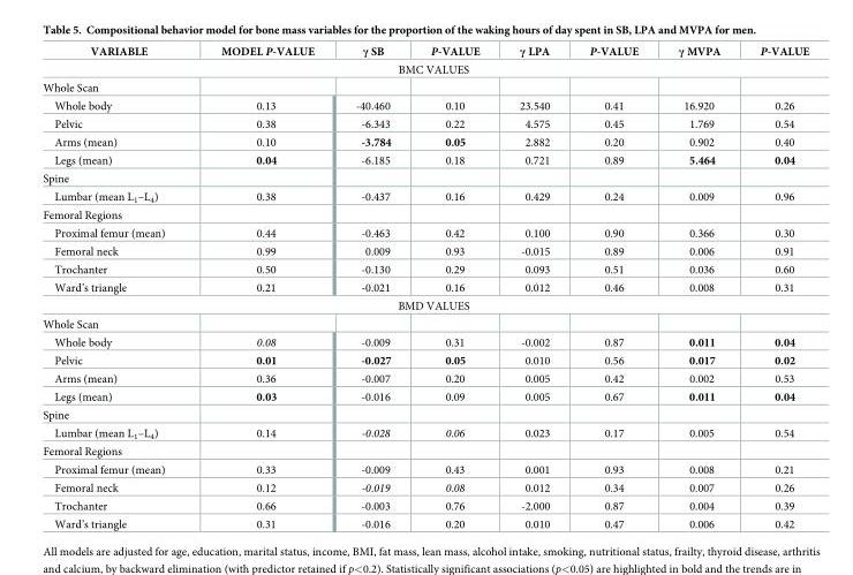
<table><thead><tr><td>VARIABLE</td><td>MODEL P-VALUE</td><td>γ SB</td><td>P-VALUE</td><td>γ LPA</td><td>P-VALUE</td><td>γ MVPA</td><td>P-VALUE</td></tr></thead><tbody><tr><td colspan="8">BMC VALUES</td></tr><tr><td colspan="8">Whole Scan</td></tr><tr><td>Whole body</td><td>0.13</td><td>-40.460</td><td>0.10</td><td>23.540</td><td>0.41</td><td>16.920</td><td>0.26</td></tr><tr><td>Pelvic</td><td>0.38</td><td>-6.343</td><td>0.22</td><td>4.575</td><td>0.45</td><td>1.769</td><td>0.54</td></tr><tr><td>Arms (mean)</td><td>0.10</td><td>-3.784</td><td>0.05</td><td>2.882</td><td>0.20</td><td>0.902</td><td>0.40</td></tr><tr><td>Legs (mean)</td><td>0.04</td><td>-6.185</td><td>0.18</td><td>0.721</td><td>0.89</td><td>5.464</td><td>0.04</td></tr><tr><td colspan="8">Spine</td></tr><tr><td>Lumbar (mean L<sub>1</sub>–L<sub>4</sub>)</td><td>0.38</td><td>-0.437</td><td>0.16</td><td>0.429</td><td>0.24</td><td>0.009</td><td>0.96</td></tr><tr><td colspan="8">Femoral Regions</td></tr><tr><td>Proximal femur (mean)</td><td>0.44</td><td>-0.463</td><td>0.42</td><td>0.100</td><td>0.90</td><td>0.366</td><td>0.30</td></tr><tr><td>Femoral neck</td><td>0.99</td><td>0.009</td><td>0.93</td><td>-0.015</td><td>0.89</td><td>0.006</td><td>0.91</td></tr><tr><td>Trochanter</td><td>0.50</td><td>-0.130</td><td>0.29</td><td>0.093</td><td>0.51</td><td>0.036</td><td>0.60</td></tr><tr><td>Ward’s triangle</td><td>0.21</td><td>-0.021</td><td>0.16</td><td>0.012</td><td>0.46</td><td>0.008</td><td>0.31</td></tr><tr><td colspan="8">BMD VALUES</td></tr><tr><td colspan="8">Whole Scan</td></tr><tr><td>Whole body</td><td>0.08</td><td>-0.009</td><td>0.31</td><td>-0.002</td><td>0.87</td><td>0.011</td><td>0.04</td></tr><tr><td>Pelvic</td><td>0.01</td><td>-0.027</td><td>0.05</td><td>0.010</td><td>0.56</td><td>0.017</td><td>0.02</td></tr><tr><td>Arms (mean)</td><td>0.36</td><td>-0.007</td><td>0.20</td><td>0.005</td><td>0.42</td><td>0.002</td><td>0.53</td></tr><tr><td>Legs (mean)</td><td>0.03</td><td>-0.016</td><td>0.09</td><td>0.005</td><td>0.67</td><td>0.011</td><td>0.04</td></tr><tr><td colspan="8">Spine</td></tr><tr><td>Lumbar (mean L<sub>1</sub>–L<sub>4</sub>)</td><td>0.14</td><td>-0.028</td><td>0.06</td><td>0.023</td><td>0.17</td><td>0.005</td><td>0.54</td></tr><tr><td colspan="8">Femoral Regions</td></tr><tr><td>Proximal femur (mean)</td><td>0.33</td><td>-0.009</td><td>0.43</td><td>0.001</td><td>0.93</td><td>0.008</td><td>0.21</td></tr><tr><td>Femoral neck</td><td>0.12</td><td>-0.019</td><td>0.08</td><td>0.012</td><td>0.34</td><td>0.007</td><td>0.26</td></tr><tr><td>Trochanter</td><td>0.66</td><td>-0.003</td><td>0.76</td><td>-2.000</td><td>0.87</td><td>0.004</td><td>0.39</td></tr><tr><td>Ward’s triangle</td><td>0.31</td><td>-0.016</td><td>0.20</td><td>0.010</td><td>0.47</td><td>0.006</td><td>0.42</td></tr></tbody></table>